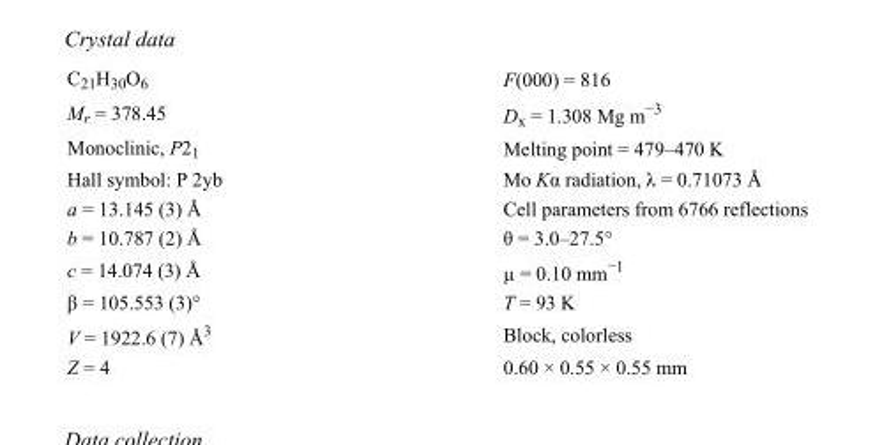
<table><tbody><tr><td>C<sub>21</sub>H<sub>30</sub>O<sub>6</sub></td><td>F(000) = 816</td></tr><tr><td>M<sub>r</sub> = 378.45</td><td>D<sub>x</sub> = 1.308 Mg m<sup>−3</sup></td></tr><tr><td>Monoclinic, P2<sub>1</sub></td><td>Melting point = 479–470 K</td></tr><tr><td>Hall symbol: P 2yb</td><td>Mo Kα radiation, λ = 0.71073 Å</td></tr><tr><td>a = 13.145 (3) Å</td><td>Cell parameters from 6766 reflections</td></tr><tr><td>b = 10.787 (2) Å</td><td>θ = 3.0–27.5°</td></tr><tr><td>c = 14.074 (3) Å</td><td>µ = 0.10 mm<sup>−1</sup></td></tr><tr><td>β = 105.553 (3)°</td><td>T = 93 K</td></tr><tr><td>V = 1922.6 (7) Å<sup>3</sup></td><td>Block, colorless</td></tr><tr><td>Z = 4</td><td>0.60 × 0.55 × 0.55 mm</td></tr></tbody></table>